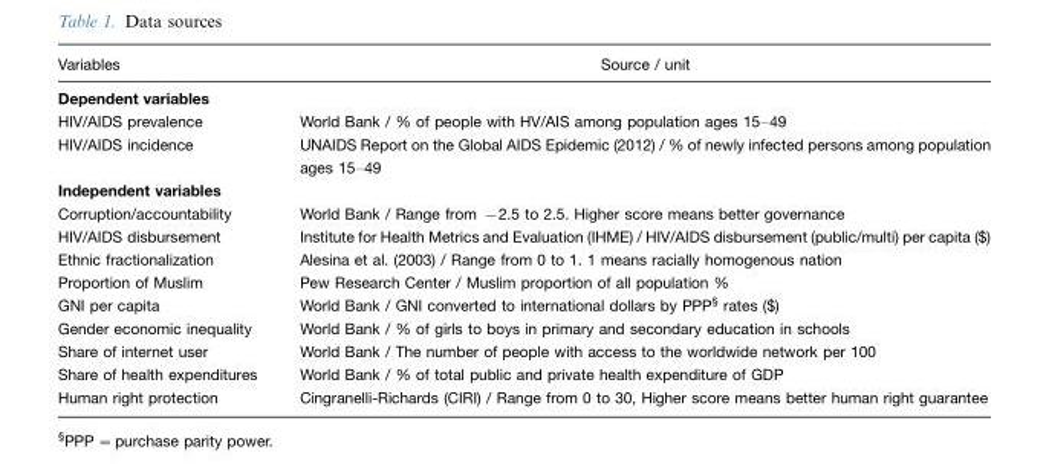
<table><thead><tr><td>Variables</td><td>Source / unit</td></tr></thead><tbody><tr><td colspan="2">Dependent variables</td></tr><tr><td>HIV/AIDS prevalence</td><td>World Bank / % of people with HV/AIS among population ages 15–49</td></tr><tr><td>HIV/AIDS incidence</td><td>UNAIDS Report on the Global AIDS Epidemic (2012) / % of newly infected persons among population ages 15–49</td></tr><tr><td colspan="2">Independent variables</td></tr><tr><td>Corruption/accountability</td><td>World Bank / Range from −2.5 to 2.5. Higher score means better governance</td></tr><tr><td>HIV/AIDS disbursement</td><td>Institute for Health Metrics and Evaluation (IHME) / HIV/AIDS disbursement (public/multi) per capita ($)</td></tr><tr><td>Ethnic fractionalization</td><td>Alesina et al. (2003) / Range from 0 to 1. 1 means racially homogenous nation</td></tr><tr><td>Proportion of Muslim</td><td>Pew Research Center / Muslim proportion of all population %</td></tr><tr><td>GNI per capita</td><td>World Bank / GNI converted to international dollars by PPP§ rates ($)</td></tr><tr><td>Gender economic inequality</td><td>World Bank / % of girls to boys in primary and secondary education in schools</td></tr><tr><td>Share of internet user</td><td>World Bank / The number of people with access to the worldwide network per 100</td></tr><tr><td>Share of health expenditures</td><td>World Bank / % of total public and private health expenditure of GDP</td></tr><tr><td>Human right protection</td><td>Cingranelli-Richards (CIRI) / Range from 0 to 30, Higher score means better human right guarantee</td></tr></tbody></table>